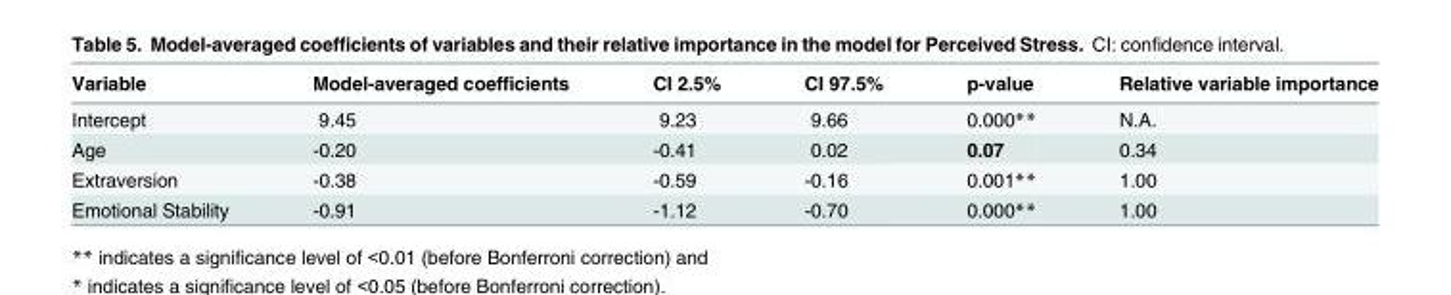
<table><thead><tr><td>Variable</td><td>Model-averaged coefficients</td><td>CI 2.5%</td><td>CI 97.5%</td><td>p-value</td><td>Relative variable importance</td></tr></thead><tbody><tr><td>Intercept</td><td>9.45</td><td>9.23</td><td>9.66</td><td>0.000**</td><td>N.A.</td></tr><tr><td>Age</td><td>-0.20</td><td>-0.41</td><td>0.02</td><td>0.07</td><td>0.34</td></tr><tr><td>Extraversion</td><td>-0.38</td><td>-0.59</td><td>-0.16</td><td>0.001**</td><td>1.00</td></tr><tr><td>Emotional Stability</td><td>-0.91</td><td>-1.12</td><td>-0.70</td><td>0.000**</td><td>1.00</td></tr></tbody></table>